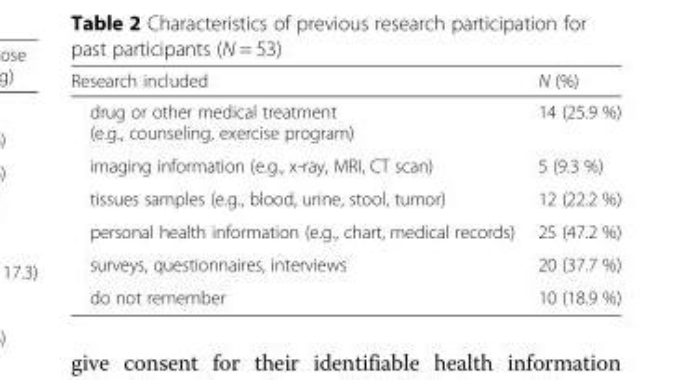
<table><thead><tr><td>Research included</td><td>N (%)</td></tr></thead><tbody><tr><td>drug or other medical treatment (e.g., counseling, exercise program)</td><td>14 (25.9 %)</td></tr><tr><td>imaging information (e.g., x-ray, MRI, CT scan)</td><td>5 (9.3 %)</td></tr><tr><td>tissues samples (e.g., blood, urine, stool, tumor)</td><td>12 (22.2 %)</td></tr><tr><td>personal health information (e.g., chart, medical records)</td><td>25 (47.2 %)</td></tr><tr><td>surveys, questionnaires, interviews</td><td>20 (37.7 %)</td></tr><tr><td>do not remember</td><td>10 (18.9 %)</td></tr></tbody></table>